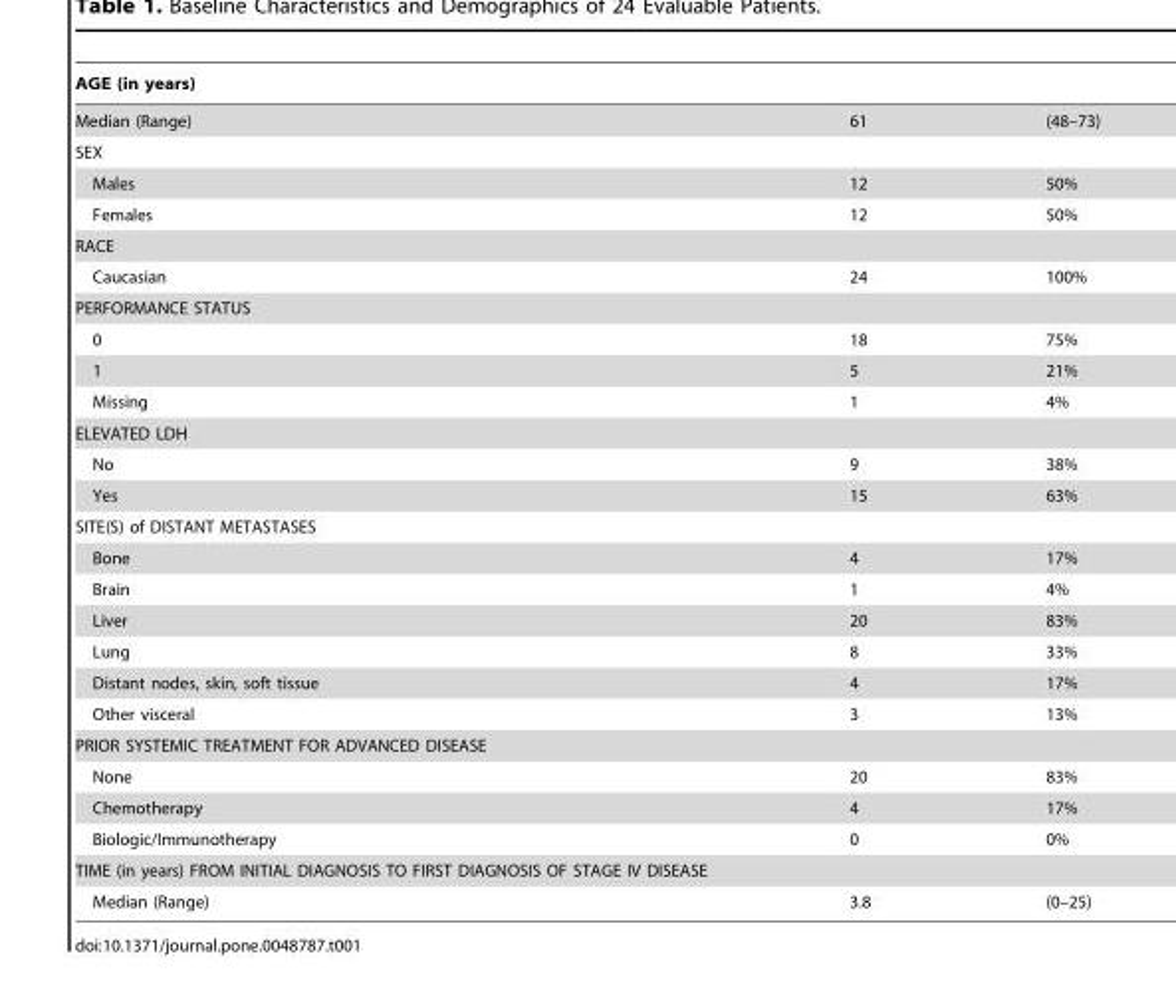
<table><thead><tr><td colspan="3">AGE (in years)</td></tr><tr><td>Median (Range)</td><td>61</td><td>(48–73)</td></tr></thead><tbody><tr><td colspan="3">SEX</td></tr><tr><td>Males</td><td>12</td><td>50%</td></tr><tr><td>Females</td><td>12</td><td>50%</td></tr><tr><td colspan="3">RACE</td></tr><tr><td>Caucasian</td><td>24</td><td>100%</td></tr><tr><td colspan="3">PERFORMANCE STATUS</td></tr><tr><td>0</td><td>18</td><td>75%</td></tr><tr><td>1</td><td>5</td><td>21%</td></tr><tr><td>Missing</td><td>1</td><td>4%</td></tr><tr><td colspan="3">ELEVATED LDH</td></tr><tr><td>No</td><td>9</td><td>38%</td></tr><tr><td>Yes</td><td>15</td><td>63%</td></tr><tr><td colspan="3">SITE(S) of DISTANT METASTASES</td></tr><tr><td>Bone</td><td>4</td><td>17%</td></tr><tr><td>Brain</td><td>1</td><td>4%</td></tr><tr><td>Liver</td><td>20</td><td>83%</td></tr><tr><td>Lung</td><td>8</td><td>33%</td></tr><tr><td>Distant nodes, skin, soft tissue</td><td>4</td><td>17%</td></tr><tr><td>Other visceral</td><td>3</td><td>13%</td></tr><tr><td colspan="3">PRIOR SYSTEMIC TREATMENT FOR ADVANCED DISEASE</td></tr><tr><td>None</td><td>20</td><td>83%</td></tr><tr><td>Chemotherapy</td><td>4</td><td>17%</td></tr><tr><td>Biologic/Immunotherapy</td><td>0</td><td>0%</td></tr><tr><td colspan="3">TIME (in years) FROM INITIAL DIAGNOSIS TO FIRST DIAGNOSIS OF STAGE IV DISEASE</td></tr><tr><td>Median (Range)</td><td>3.8</td><td>(0–25)</td></tr></tbody></table>